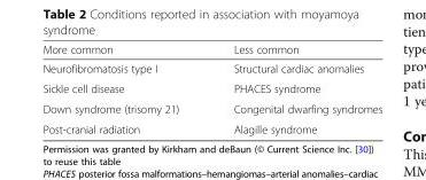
<table><thead><tr><td>More common</td><td>Less common</td></tr></thead><tbody><tr><td>Neurofibromatosis type I</td><td>Structural cardiac anomalies</td></tr><tr><td>Sickle cell disease</td><td>PHACES syndrome</td></tr><tr><td>Down syndrome (trisomy 21)</td><td>Congenital dwarfing syndromes</td></tr><tr><td>Post-cranial radiation</td><td>Alagille syndrome</td></tr></tbody></table>